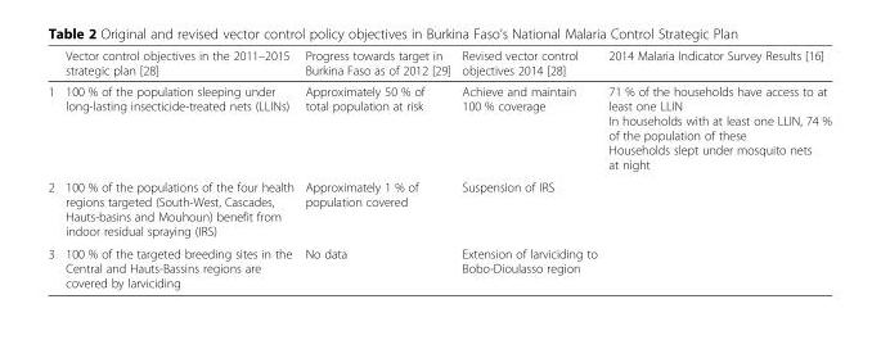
<table><thead><tr><td></td><td>Vector control objectives in the 2011–2015 strategic plan [28]</td><td>Progress towards target in Burkina Faso as of 2012 [29]</td><td>Revised vector control objectives 2014 [28]</td><td>2014 Malaria Indicator Survey Results [16]</td></tr></thead><tbody><tr><td>1</td><td>100 % of the population sleeping under long-lasting insecticide-treated nets (LLINs)</td><td>Approximately 50 % of total population at risk</td><td>Achieve and maintain 100 % coverage</td><td>71 % of the households have access to at least one LLIN In households with at least one LLIN, 74 % of the population of these Households slept under mosquito nets at night</td></tr><tr><td>2</td><td>100 % of the populations of the four health regions targeted (South-West, Cascades, Hauts-basins and Mouhoun) benefit from indoor residual spraying (IRS)</td><td>Approximately 1 % of population covered</td><td>Suspension of IRS</td><td></td></tr><tr><td>3</td><td>100 % of the targeted breeding sites in the Central and Hauts-Bassins regions are covered by larviciding</td><td>No data</td><td>Extension of larviciding to Bobo-Dioulasso region</td><td></td></tr></tbody></table>